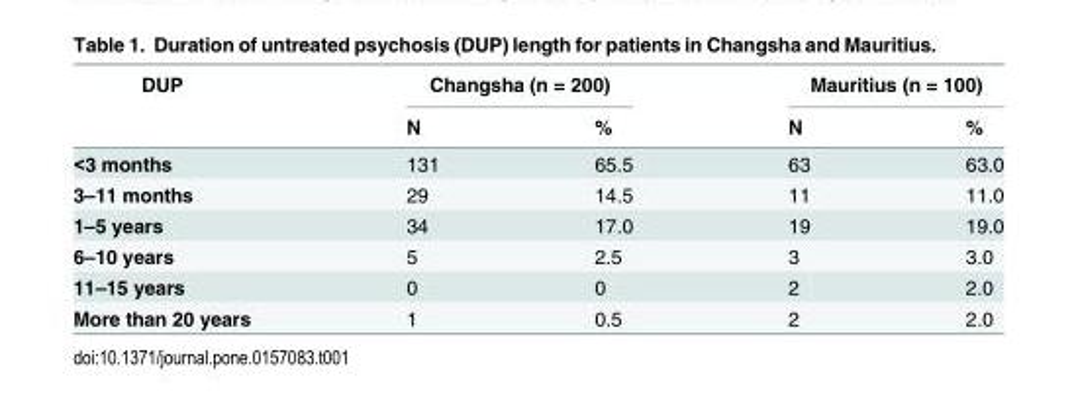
<table><thead><tr><td rowspan="2">DUP</td><td colspan="2">Changsha (n = 200)</td><td colspan="2">Mauritius (n = 100)</td></tr><tr><td>N</td><td>%</td><td>N</td><td>%</td></tr></thead><tbody><tr><td>&lt;3 months</td><td>131</td><td>65.5</td><td>63</td><td>63.0</td></tr><tr><td>3–11 months</td><td>29</td><td>14.5</td><td>11</td><td>11.0</td></tr><tr><td>1–5 years</td><td>34</td><td>17.0</td><td>19</td><td>19.0</td></tr><tr><td>6–10 years</td><td>5</td><td>2.5</td><td>3</td><td>3.0</td></tr><tr><td>11–15 years</td><td>0</td><td>0</td><td>2</td><td>2.0</td></tr><tr><td>More than 20 years</td><td>1</td><td>0.5</td><td>2</td><td>2.0</td></tr></tbody></table>